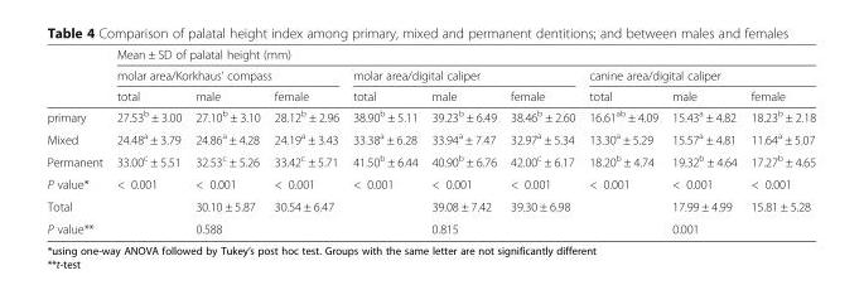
<table><thead><tr><td rowspan="3"></td><td colspan="9">Mean ± SD of palatal height (mm)</td></tr><tr><td colspan="3">molar area/Korkhaus’ compass</td><td colspan="3">molar area/digital caliper</td><td colspan="3">canine area/digital caliper</td></tr><tr><td>total</td><td>male</td><td>female</td><td>total</td><td>male</td><td>female</td><td>total</td><td>male</td><td>female</td></tr></thead><tbody><tr><td>primary</td><td>27.53<sup>b</sup> ± 3.00</td><td>27.10<sup>b</sup> ± 3.10</td><td>28.12<sup>b</sup> ± 2.96</td><td>38.90<sup>b</sup> ± 5.11</td><td>39.23<sup>b</sup> ± 6.49</td><td>38.46<sup>b</sup> ± 2.60</td><td>16.61<sup>ab</sup> ± 4.09</td><td>15.43<sup>a</sup> ± 4.82</td><td>18.23<sup>b</sup> ± 2.18</td></tr><tr><td>Mixed</td><td>24.48<sup>a</sup> ± 3.79</td><td>24.86<sup>a</sup> ± 4.28</td><td>24.19<sup>a</sup> ± 3.43</td><td>33.38<sup>a</sup> ± 6.28</td><td>33.94<sup>a</sup> ± 7.47</td><td>32.97<sup>a</sup> ± 5.34</td><td>13.30<sup>a</sup> ± 5.29</td><td>15.57<sup>a</sup> ± 4.81</td><td>11.64<sup>a</sup> ± 5.07</td></tr><tr><td>Permanent</td><td>33.00<sup>c</sup> ± 5.51</td><td>32.53<sup>c</sup> ± 5.26</td><td>33.42<sup>c</sup> ± 5.71</td><td>41.50<sup>b</sup> ± 6.44</td><td>40.90<sup>b</sup> ± 6.76</td><td>42.00<sup>c</sup> ± 6.17</td><td>18.20<sup>b</sup> ± 4.74</td><td>19.32<sup>b</sup> ± 4.64</td><td>17.27<sup>b</sup> ± 4.65</td></tr><tr><td>P value*</td><td>&lt; 0.001</td><td>&lt; 0.001</td><td>&lt; 0.001</td><td>&lt; 0.001</td><td>&lt; 0.001</td><td>&lt; 0.001</td><td>&lt; 0.001</td><td>&lt; 0.001</td><td>&lt; 0.001</td></tr><tr><td>Total</td><td></td><td>30.10 ± 5.87</td><td>30.54 ± 6.47</td><td></td><td>39.08 ± 7.42</td><td>39.30 ± 6.98</td><td></td><td>17.99 ± 4.99</td><td>15.81 ± 5.28</td></tr><tr><td>P value**</td><td></td><td colspan="2">0.588</td><td></td><td colspan="2">0.815</td><td></td><td colspan="2">0.001</td></tr></tbody></table>